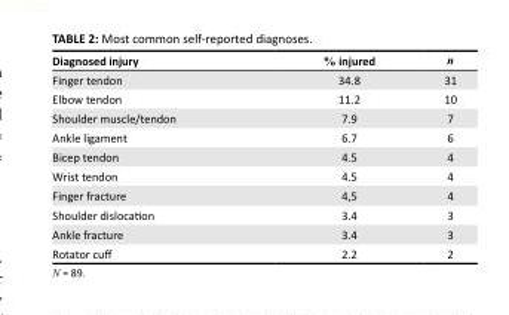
<table><thead><tr><td>Diagnosed injury</td><td>% injured</td><td>n</td></tr></thead><tbody><tr><td>Finger tendon</td><td>34.8</td><td>31</td></tr><tr><td>Elbow tendon</td><td>11.2</td><td>10</td></tr><tr><td>Shoulder muscle/tendon</td><td>7.9</td><td>7</td></tr><tr><td>Ankle ligament</td><td>6.7</td><td>6</td></tr><tr><td>Bicep tendon</td><td>4.5</td><td>4</td></tr><tr><td>Wrist tendon</td><td>4.5</td><td>4</td></tr><tr><td>Finger fracture</td><td>4,5</td><td>4</td></tr><tr><td>Shoulder dislocation</td><td>3.4</td><td>3</td></tr><tr><td>Ankle fracture</td><td>3.4</td><td>3</td></tr><tr><td>Rotator cuff</td><td>2.2</td><td>2</td></tr></tbody></table>